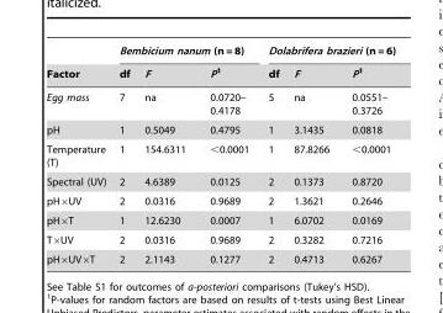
<table><thead><tr><td rowspan="2">Factor</td><td colspan="3">Bembicium nanum (n = 8)</td><td colspan="3">Dolabrifera brazieri (n = 6)</td></tr><tr><td>df</td><td>F</td><td>P1</td><td>df</td><td>F</td><td>P1</td></tr></thead><tbody><tr><td>Egg mass</td><td>7</td><td>na</td><td>0.0720– 0.4178</td><td>5</td><td>na</td><td>0.0551– 0.3726</td></tr><tr><td>pH</td><td>1</td><td>0.5049</td><td>0.4795</td><td>1</td><td>3.1435</td><td>0.0818</td></tr><tr><td>Temperature (T)</td><td>1</td><td>154.6311</td><td>&lt;0.0001</td><td>1</td><td>87.8266</td><td>&lt;0.0001</td></tr><tr><td>Spectral (UV)</td><td>2</td><td>4.6389</td><td>0.0125</td><td>2</td><td>0.1373</td><td>0.8720</td></tr><tr><td>pH×UV</td><td>2</td><td>0.0316</td><td>0.9689</td><td>2</td><td>1.3621</td><td>0.2646</td></tr><tr><td>pH×T</td><td>1</td><td>12.6230</td><td>0.0007</td><td>1</td><td>6.0702</td><td>0.0169</td></tr><tr><td>T×UV</td><td>2</td><td>0.0316</td><td>0.9689</td><td>2</td><td>0.3282</td><td>0.7216</td></tr><tr><td>pH×UV×T</td><td>2</td><td>2.1143</td><td>0.1277</td><td>2</td><td>0.4713</td><td>0.6267</td></tr></tbody></table>